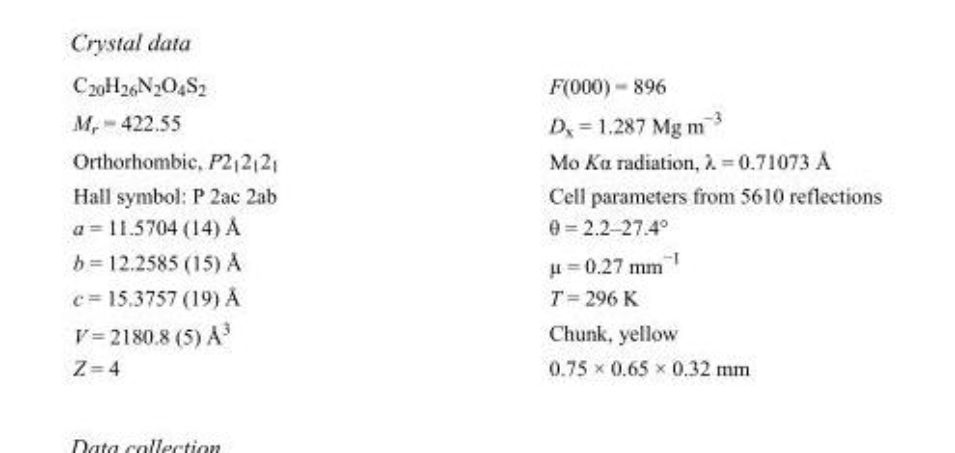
<table><tbody><tr><td>C<sub>20</sub>H<sub>26</sub>N<sub>2</sub>O<sub>4</sub>S<sub>2</sub></td><td>F(000) = 896</td></tr><tr><td>M<sub>r</sub> = 422.55</td><td>D<sub>x</sub> = 1.287 Mg m<sup>−3</sup></td></tr><tr><td>Orthorhombic, P2<sub>1</sub>2<sub>1</sub>2<sub>1</sub></td><td>Mo Kα radiation, λ = 0.71073 Å</td></tr><tr><td>Hall symbol: P 2ac 2ab</td><td>Cell parameters from 5610 reflections</td></tr><tr><td>a = 11.5704 (14) Å</td><td>θ = 2.2–27.4°</td></tr><tr><td>b = 12.2585 (15) Å</td><td>µ = 0.27 mm<sup>−1</sup></td></tr><tr><td>c = 15.3757 (19) Å</td><td>T = 296 K</td></tr><tr><td>V = 2180.8 (5) Å<sup>3</sup></td><td>Chunk, yellow</td></tr><tr><td>Z = 4</td><td>0.75 × 0.65 × 0.32 mm</td></tr></tbody></table>